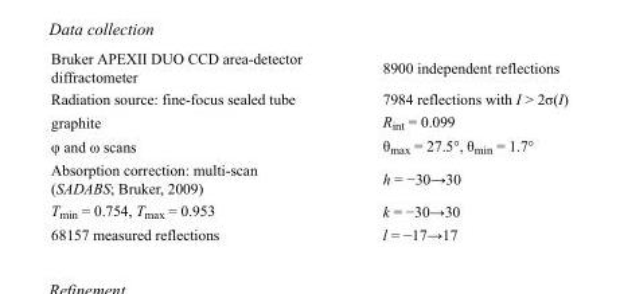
<table><tbody><tr><td>Bruker APEXII DUO CCD area-detector diffractometer</td><td>8900 independent reflections</td></tr><tr><td>Radiation source: fine-focus sealed tube</td><td>7984 reflections with I &gt; 2σ(I)</td></tr><tr><td>graphite</td><td>R<sub>int</sub> = 0.099</td></tr><tr><td>φ and ω scans</td><td>θ<sub>max</sub> = 27.5°, θ<sub>min</sub> = 1.7°</td></tr><tr><td>Absorption correction: multi-scan (SADABS; Bruker, 2009)</td><td>h = −30→30</td></tr><tr><td>T<sub>min</sub> = 0.754, T<sub>max</sub> = 0.953</td><td>k = −30→30</td></tr><tr><td>68157 measured reflections</td><td>l = −17→17</td></tr></tbody></table>